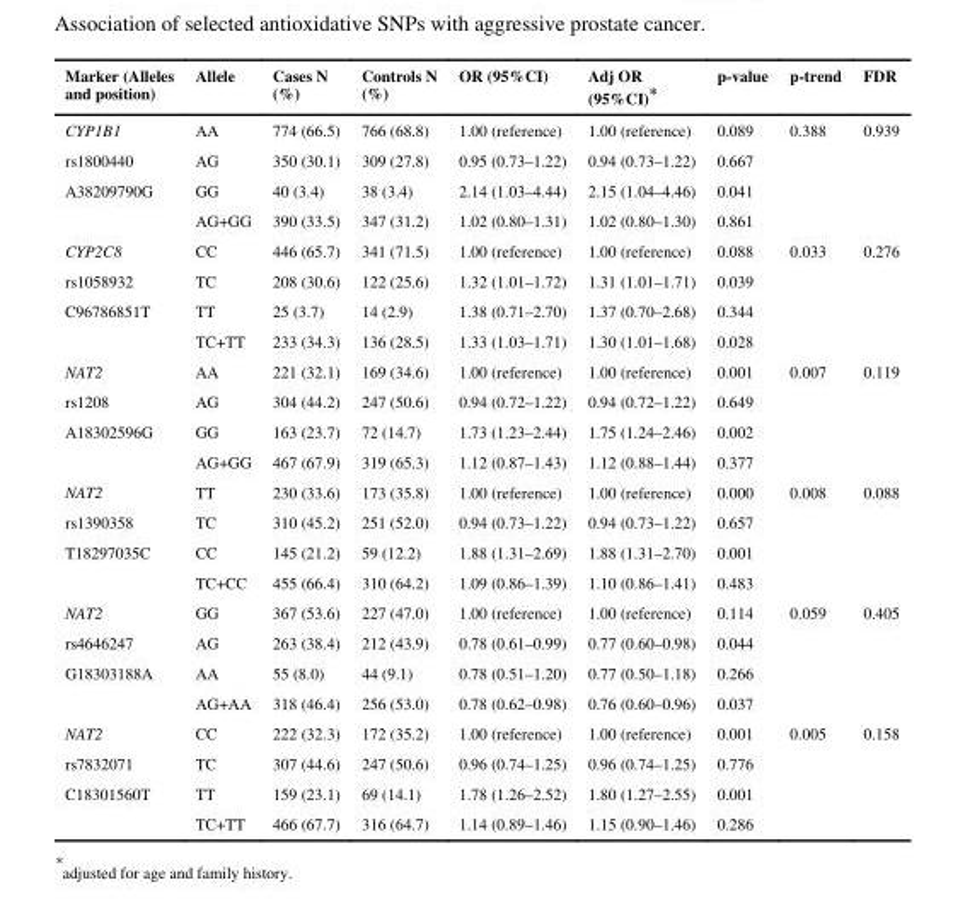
<table><thead><tr><td>Marker (Alleles and position)</td><td>Allele</td><td>Cases N (%)</td><td>Controls N (%)</td><td>OR (95%CI)</td><td>Adj OR (95%CI)*</td><td>p-value</td><td>p-trend</td><td>FDR</td></tr></thead><tbody><tr><td>CYP1B1</td><td>AA</td><td>774 (66.5)</td><td>766 (68.8)</td><td>1.00 (reference)</td><td>1.00 (reference)</td><td>0.089</td><td>0.388</td><td>0.939</td></tr><tr><td>rs1800440</td><td>AG</td><td>350 (30.1)</td><td>309 (27.8)</td><td>0.95 (0.73–1.22)</td><td>0.94 (0.73–1.22)</td><td>0.667</td><td></td><td></td></tr><tr><td rowspan="2">A38209790G</td><td>GG</td><td>40 (3.4)</td><td>38 (3.4)</td><td>2.14 (1.03–4.44)</td><td>2.15 (1.04–4.46)</td><td>0.041</td><td></td><td></td></tr><tr><td>AG+GG</td><td>390 (33.5)</td><td>347 (31.2)</td><td>1.02 (0.80–1.31)</td><td>1.02 (0.80–1.30)</td><td>0.861</td><td></td><td></td></tr><tr><td>CYP2C8</td><td>CC</td><td>446 (65.7)</td><td>341 (71.5)</td><td>1.00 (reference)</td><td>1.00 (reference)</td><td>0.088</td><td>0.033</td><td>0.276</td></tr><tr><td>rs1058932</td><td>TC</td><td>208 (30.6)</td><td>122 (25.6)</td><td>1.32 (1.01–1.72)</td><td>1.31 (1.01–1.71)</td><td>0.039</td><td></td><td></td></tr><tr><td rowspan="2">C96786851T</td><td>TT</td><td>25 (3.7)</td><td>14 (2.9)</td><td>1.38 (0.71–2.70)</td><td>1.37 (0.70–2.68)</td><td>0.344</td><td></td><td></td></tr><tr><td>TC+TT</td><td>233 (34.3)</td><td>136 (28.5)</td><td>1.33 (1.03–1.71)</td><td>1.30 (1.01–1.68)</td><td>0.028</td><td></td><td></td></tr><tr><td>NAT2</td><td>AA</td><td>221 (32.1)</td><td>169 (34.6)</td><td>1.00 (reference)</td><td>1.00 (reference)</td><td>0.001</td><td>0.007</td><td>0.119</td></tr><tr><td>rs1208</td><td>AG</td><td>304 (44.2)</td><td>247 (50.6)</td><td>0.94 (0.72–1.22)</td><td>0.94 (0.72–1.22)</td><td>0.649</td><td></td><td></td></tr><tr><td rowspan="2">A18302596G</td><td>GG</td><td>163 (23.7)</td><td>72 (14.7)</td><td>1.73 (1.23–2.44)</td><td>1.75 (1.24–2.46)</td><td>0.002</td><td></td><td></td></tr><tr><td>AG+GG</td><td>467 (67.9)</td><td>319 (65.3)</td><td>1.12 (0.87–1.43)</td><td>1.12 (0.88–1.44)</td><td>0.377</td><td></td><td></td></tr><tr><td>NAT2</td><td>TT</td><td>230 (33.6)</td><td>173 (35.8)</td><td>1.00 (reference)</td><td>1.00 (reference)</td><td>0.000</td><td>0.008</td><td>0.088</td></tr><tr><td>rs1390358</td><td>TC</td><td>310 (45.2)</td><td>251 (52.0)</td><td>0.94 (0.73–1.22)</td><td>0.94 (0.73–1.22)</td><td>0.657</td><td></td><td></td></tr><tr><td rowspan="2">T18297035C</td><td>CC</td><td>145 (21.2)</td><td>59 (12.2)</td><td>1.88 (1.31–2.69)</td><td>1.88 (1.31–2.70)</td><td>0.001</td><td></td><td></td></tr><tr><td>TC+CC</td><td>455 (66.4)</td><td>310 (64.2)</td><td>1.09 (0.86–1.39)</td><td>1.10 (0.86–1.41)</td><td>0.483</td><td></td><td></td></tr><tr><td>NAT2</td><td>GG</td><td>367 (53.6)</td><td>227 (47.0)</td><td>1.00 (reference)</td><td>1.00 (reference)</td><td>0.114</td><td>0.059</td><td>0.405</td></tr><tr><td>rs4646247</td><td>AG</td><td>263 (38.4)</td><td>212 (43.9)</td><td>0.78 (0.61–0.99)</td><td>0.77 (0.60–0.98)</td><td>0.044</td><td></td><td></td></tr><tr><td rowspan="2">G18303188A</td><td>AA</td><td>55 (8.0)</td><td>44 (9.1)</td><td>0.78 (0.51–1.20)</td><td>0.77 (0.50–1.18)</td><td>0.266</td><td></td><td></td></tr><tr><td>AG+AA</td><td>318 (46.4)</td><td>256 (53.0)</td><td>0.78 (0.62–0.98)</td><td>0.76 (0.60–0.96)</td><td>0.037</td><td></td><td></td></tr><tr><td>NAT2</td><td>CC</td><td>222 (32.3)</td><td>172 (35.2)</td><td>1.00 (reference)</td><td>1.00 (reference)</td><td>0.001</td><td>0.005</td><td>0.158</td></tr><tr><td>rs7832071</td><td>TC</td><td>307 (44.6)</td><td>247 (50.6)</td><td>0.96 (0.74–1.25)</td><td>0.96 (0.74–1.25)</td><td>0.776</td><td></td><td></td></tr><tr><td rowspan="2">C18301560T</td><td>TT</td><td>159 (23.1)</td><td>69 (14.1)</td><td>1.78 (1.26–2.52)</td><td>1.80 (1.27–2.55)</td><td>0.001</td><td></td><td></td></tr><tr><td>TC+TT</td><td>466 (67.7)</td><td>316 (64.7)</td><td>1.14 (0.89–1.46)</td><td>1.15 (0.90–1.46)</td><td>0.286</td><td></td><td></td></tr></tbody></table>